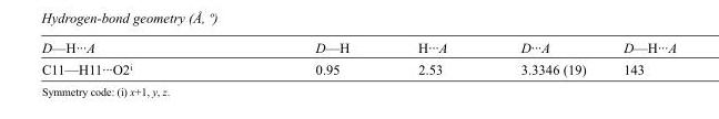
<table><tbody><tr><td>D—H···A</td><td>D—H</td><td>H···A</td><td>D···A</td><td>D—H···A</td></tr><tr><td>C11—H11···O2<sup>i</sup></td><td>0.95</td><td>2.53</td><td>3.3346 (19)</td><td>143</td></tr></tbody></table>